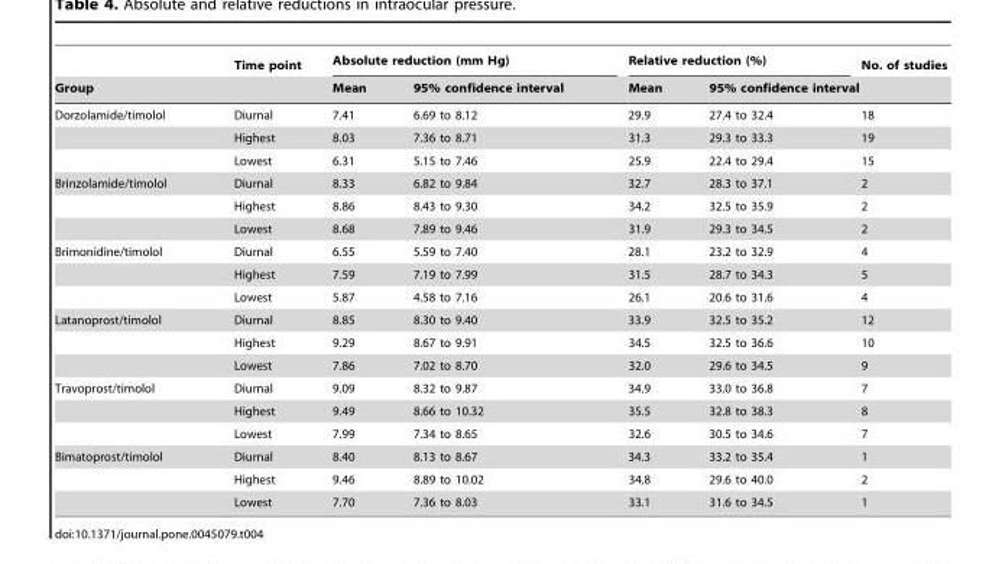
<table><thead><tr><td rowspan="2">Group</td><td rowspan="2">Time point</td><td colspan="2">Absolute reduction (mm Hg)</td><td colspan="2">Relative reduction (%)</td><td rowspan="2">No. of studies</td></tr><tr><td>Mean</td><td>95% confidence interval</td><td>Mean</td><td>95% confidence interval</td></tr></thead><tbody><tr><td rowspan="3">Dorzolamide/timolol</td><td>Diurnal</td><td>7.41</td><td>6.69 to 8.12</td><td>29.9</td><td>27.4 to 32.4</td><td>18</td></tr><tr><td>Highest</td><td>8.03</td><td>7.36 to 8.71</td><td>31.3</td><td>29.3 to 33.3</td><td>19</td></tr><tr><td>Lowest</td><td>6.31</td><td>5.15 to 7.46</td><td>25.9</td><td>22.4 to 29.4</td><td>15</td></tr><tr><td rowspan="3">Brinzolamide/timolol</td><td>Diurnal</td><td>8.33</td><td>6.82 to 9.84</td><td>32.7</td><td>28.3 to 37.1</td><td>2</td></tr><tr><td>Highest</td><td>8.86</td><td>8.43 to 9.30</td><td>34.2</td><td>32.5 to 35.9</td><td>2</td></tr><tr><td>Lowest</td><td>8.68</td><td>7.89 to 9.46</td><td>31.9</td><td>29.3 to 34.5</td><td>2</td></tr><tr><td rowspan="3">Brimonidine/timolol</td><td>Diurnal</td><td>6.55</td><td>5.59 to 7.40</td><td>28.1</td><td>23.2 to 32.9</td><td>4</td></tr><tr><td>Highest</td><td>7.59</td><td>7.19 to 7.99</td><td>31.5</td><td>28.7 to 34.3</td><td>5</td></tr><tr><td>Lowest</td><td>5.87</td><td>4.58 to 7.16</td><td>26.1</td><td>20.6 to 31.6</td><td>4</td></tr><tr><td rowspan="3">Latanoprost/timolol</td><td>Diurnal</td><td>8.85</td><td>8.30 to 9.40</td><td>33.9</td><td>32.5 to 35.2</td><td>12</td></tr><tr><td>Highest</td><td>9.29</td><td>8.67 to 9.91</td><td>34.5</td><td>32.5 to 36.6</td><td>10</td></tr><tr><td>Lowest</td><td>7.86</td><td>7.02 to 8.70</td><td>32.0</td><td>29.6 to 34.5</td><td>9</td></tr><tr><td rowspan="3">Travoprost/timolol</td><td>Diurnal</td><td>9.09</td><td>8.32 to 9.87</td><td>34.9</td><td>33.0 to 36.8</td><td>7</td></tr><tr><td>Highest</td><td>9.49</td><td>8.66 to 10.32</td><td>35.5</td><td>32.8 to 38.3</td><td>8</td></tr><tr><td>Lowest</td><td>7.99</td><td>7.34 to 8.65</td><td>32.6</td><td>30.5 to 34.6</td><td>7</td></tr><tr><td rowspan="3">Bimatoprost/timolol</td><td>Diurnal</td><td>8.40</td><td>8.13 to 8.67</td><td>34.3</td><td>33.2 to 35.4</td><td>1</td></tr><tr><td>Highest</td><td>9.46</td><td>8.89 to 10.02</td><td>34.8</td><td>29.6 to 40.0</td><td>2</td></tr><tr><td>Lowest</td><td>7.70</td><td>7.36 to 8.03</td><td>33.1</td><td>31.6 to 34.5</td><td>1</td></tr></tbody></table>